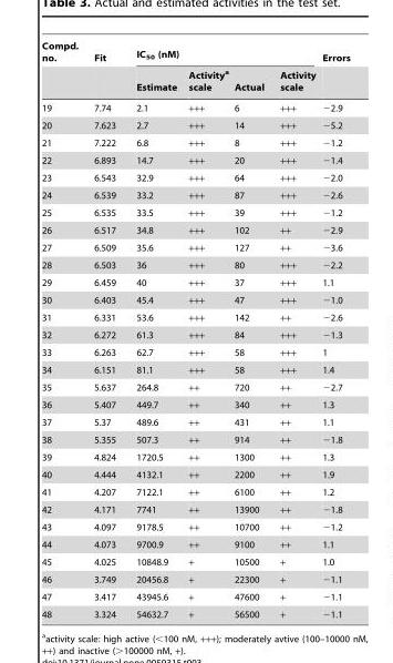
<table><thead><tr><td rowspan="2">Compd. no.</td><td rowspan="2">Fit</td><td colspan="4">IC<sub>50</sub> (nM)</td><td rowspan="2">Errors</td></tr><tr><td>Estimate</td><td>Activity<sup>a</sup> scale</td><td>Actual</td><td>Activity scale</td></tr></thead><tbody><tr><td>19</td><td>7.74</td><td>2.1</td><td>+++</td><td>6</td><td>+++</td><td>−2.9</td></tr><tr><td>20</td><td>7.623</td><td>2.7</td><td>+++</td><td>14</td><td>+++</td><td>−5.2</td></tr><tr><td>21</td><td>7.222</td><td>6.8</td><td>+++</td><td>8</td><td>+++</td><td>−1.2</td></tr><tr><td>22</td><td>6.893</td><td>14.7</td><td>+++</td><td>20</td><td>+++</td><td>−1.4</td></tr><tr><td>23</td><td>6.543</td><td>32.9</td><td>+++</td><td>64</td><td>+++</td><td>−2.0</td></tr><tr><td>24</td><td>6.539</td><td>33.2</td><td>+++</td><td>87</td><td>+++</td><td>−2.6</td></tr><tr><td>25</td><td>6.535</td><td>33.5</td><td>+++</td><td>39</td><td>+++</td><td>−1.2</td></tr><tr><td>26</td><td>6.517</td><td>34.8</td><td>+++</td><td>102</td><td>++</td><td>−2.9</td></tr><tr><td>27</td><td>6.509</td><td>35.6</td><td>+++</td><td>127</td><td>++</td><td>−3.6</td></tr><tr><td>28</td><td>6.503</td><td>36</td><td>+++</td><td>80</td><td>+++</td><td>−2.2</td></tr><tr><td>29</td><td>6.459</td><td>40</td><td>+++</td><td>37</td><td>+++</td><td>1.1</td></tr><tr><td>30</td><td>6.403</td><td>45.4</td><td>+++</td><td>47</td><td>+++</td><td>−1.0</td></tr><tr><td>31</td><td>6.331</td><td>53.6</td><td>+++</td><td>142</td><td>++</td><td>−2.6</td></tr><tr><td>32</td><td>6.272</td><td>61.3</td><td>+++</td><td>84</td><td>+++</td><td>−1.3</td></tr><tr><td>33</td><td>6.263</td><td>62.7</td><td>+++</td><td>58</td><td>+++</td><td>1</td></tr><tr><td>34</td><td>6.151</td><td>81.1</td><td>+++</td><td>58</td><td>+++</td><td>1.4</td></tr><tr><td>35</td><td>5.637</td><td>264.8</td><td>++</td><td>720</td><td>++</td><td>−2.7</td></tr><tr><td>36</td><td>5.407</td><td>449.7</td><td>++</td><td>340</td><td>++</td><td>1.3</td></tr><tr><td>37</td><td>5.37</td><td>489.6</td><td>++</td><td>431</td><td>++</td><td>1.1</td></tr><tr><td>38</td><td>5.355</td><td>507.3</td><td>++</td><td>914</td><td>++</td><td>−1.8</td></tr><tr><td>39</td><td>4.824</td><td>1720.5</td><td>++</td><td>1300</td><td>++</td><td>1.3</td></tr><tr><td>40</td><td>4.444</td><td>4132.1</td><td>++</td><td>2200</td><td>++</td><td>1.9</td></tr><tr><td>41</td><td>4.207</td><td>7122.1</td><td>++</td><td>6100</td><td>++</td><td>1.2</td></tr><tr><td>42</td><td>4.171</td><td>7741</td><td>++</td><td>13900</td><td>++</td><td>−1.8</td></tr><tr><td>43</td><td>4.097</td><td>9178.5</td><td>++</td><td>10700</td><td>++</td><td>−1.2</td></tr><tr><td>44</td><td>4.073</td><td>9700.9</td><td>++</td><td>9100</td><td>++</td><td>1.1</td></tr><tr><td>45</td><td>4.025</td><td>10848.9</td><td>+</td><td>10500</td><td>+</td><td>1.0</td></tr><tr><td>46</td><td>3.749</td><td>20456.8</td><td>+</td><td>22300</td><td>+</td><td>−1.1</td></tr><tr><td>47</td><td>3.417</td><td>43945.6</td><td>+</td><td>47600</td><td>+</td><td>−1.1</td></tr><tr><td>48</td><td>3.324</td><td>54632.7</td><td>+</td><td>56500</td><td>+</td><td>−1.1</td></tr></tbody></table>